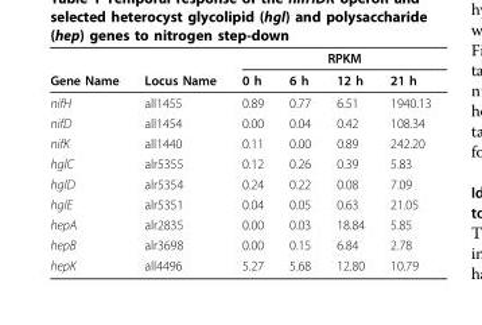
<table><thead><tr><td rowspan="2">Gene Name</td><td rowspan="2">Locus Name</td><td colspan="4">RPKM</td></tr><tr><td>0 h</td><td>6 h</td><td>12 h</td><td>21 h</td></tr></thead><tbody><tr><td>nifH</td><td>all1455</td><td>0.89</td><td>0.77</td><td>6.51</td><td>1940.13</td></tr><tr><td>nifD</td><td>all1454</td><td>0.00</td><td>0.04</td><td>0.42</td><td>108.34</td></tr><tr><td>nifK</td><td>all1440</td><td>0.11</td><td>0.00</td><td>0.89</td><td>242.20</td></tr><tr><td>hglC</td><td>alr5355</td><td>0.12</td><td>0.26</td><td>0.39</td><td>5.83</td></tr><tr><td>hglD</td><td>alr5354</td><td>0.24</td><td>0.22</td><td>0.08</td><td>7.09</td></tr><tr><td>hglE</td><td>alr5351</td><td>0.04</td><td>0.05</td><td>0.63</td><td>21.05</td></tr><tr><td>hepA</td><td>alr2835</td><td>0.00</td><td>0.03</td><td>18.84</td><td>5.85</td></tr><tr><td>hepB</td><td>alr3698</td><td>0.00</td><td>0.15</td><td>6.84</td><td>2.78</td></tr><tr><td>hepK</td><td>all4496</td><td>5.27</td><td>5.68</td><td>12.80</td><td>10.79</td></tr></tbody></table>